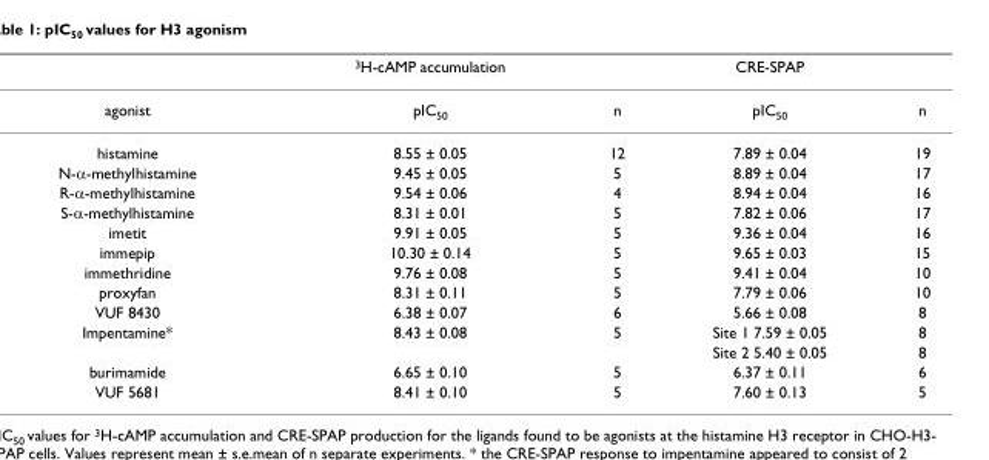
<table><thead><tr><td></td><td><sup>3</sup>H-cAMP accumulation</td><td></td><td>CRE-SPAP</td><td></td></tr></thead><tbody><tr><td>agonist</td><td>pIC<sub>50</sub></td><td>n</td><td>pIC<sub>50</sub></td><td>n</td></tr><tr><td>histamine</td><td>8.55 ± 0.05</td><td>12</td><td>7.89 ± 0.04</td><td>19</td></tr><tr><td>N-α-methylhistamine</td><td>9.45 ± 0.05</td><td>5</td><td>8.89 ± 0.04</td><td>17</td></tr><tr><td>R-α-methylhistamine</td><td>9.54 ± 0.06</td><td>4</td><td>8.94 ± 0.04</td><td>16</td></tr><tr><td>S-α-methylhistamine</td><td>8.31 ± 0.01</td><td>5</td><td>7.82 ± 0.06</td><td>17</td></tr><tr><td>imetit</td><td>9.91 ± 0.05</td><td>5</td><td>9.36 ± 0.04</td><td>16</td></tr><tr><td>immepip</td><td>10.30 ± 0.14</td><td>5</td><td>9.65 ± 0.03</td><td>15</td></tr><tr><td>immethridine</td><td>9.76 ± 0.08</td><td>5</td><td>9.41 ± 0.04</td><td>10</td></tr><tr><td>proxyfan</td><td>8.31 ± 0.11</td><td>5</td><td>7.79 ± 0.06</td><td>10</td></tr><tr><td>VUF 8430</td><td>6.38 ± 0.07</td><td>6</td><td>5.66 ± 0.08</td><td>8</td></tr><tr><td rowspan="2">Impentamine*</td><td>8.43 ± 0.08</td><td>5</td><td>Site 1 7.59 ± 0.05</td><td>8</td></tr><tr><td></td><td></td><td>Site 2 5.40 ± 0.05</td><td>8</td></tr><tr><td>burimamide</td><td>6.65 ± 0.10</td><td>5</td><td>6.37 ± 0.11</td><td>6</td></tr><tr><td>VUF 5681</td><td>8.41 ± 0.10</td><td>5</td><td>7.60 ± 0.13</td><td>5</td></tr></tbody></table>